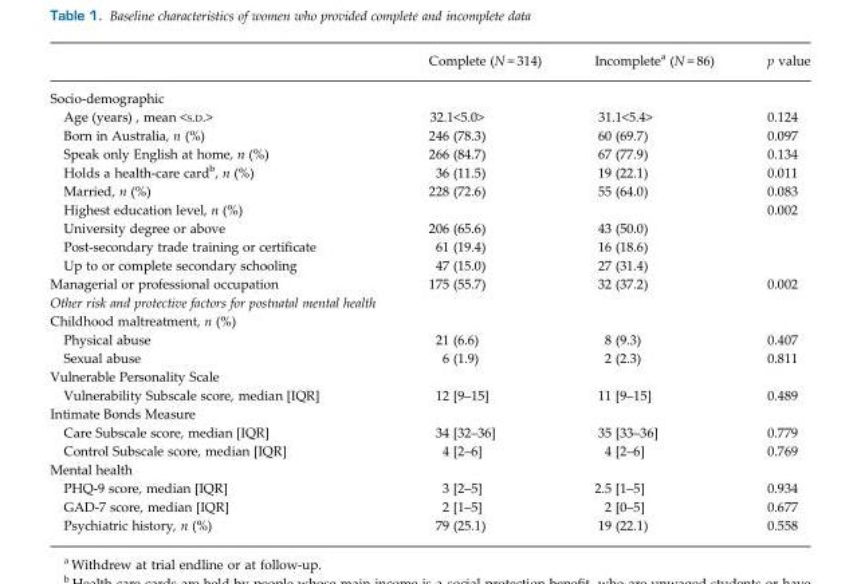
<table><thead><tr><td></td><td>Complete (N = 314)</td><td>Incomplete<sup>a</sup> (N = 86)</td><td>p value</td></tr></thead><tbody><tr><td colspan="4">Socio-demographic</td></tr><tr><td>Age (years) , mean &lt;S.D.&gt;</td><td>32.1&lt;5.0&gt;</td><td>31.1&lt;5.4&gt;</td><td>0.124</td></tr><tr><td>Born in Australia, n (%)</td><td>246 (78.3)</td><td>60 (69.7)</td><td>0.097</td></tr><tr><td>Speak only English at home, n (%)</td><td>266 (84.7)</td><td>67 (77.9)</td><td>0.134</td></tr><tr><td>Holds a health-care card<sup>b</sup>, n (%)</td><td>36 (11.5)</td><td>19 (22.1)</td><td>0.011</td></tr><tr><td>Married, n (%)</td><td>228 (72.6)</td><td>55 (64.0)</td><td>0.083</td></tr><tr><td>Highest education level, n (%)</td><td></td><td></td><td>0.002</td></tr><tr><td>University degree or above</td><td>206 (65.6)</td><td>43 (50.0)</td><td></td></tr><tr><td>Post-secondary trade training or certificate</td><td>61 (19.4)</td><td>16 (18.6)</td><td></td></tr><tr><td>Up to or complete secondary schooling</td><td>47 (15.0)</td><td>27 (31.4)</td><td></td></tr><tr><td>Managerial or professional occupation</td><td>175 (55.7)</td><td>32 (37.2)</td><td>0.002</td></tr><tr><td colspan="4">Other risk and protective factors for postnatal mental health</td></tr><tr><td colspan="4">Childhood maltreatment, n (%)</td></tr><tr><td>Physical abuse</td><td>21 (6.6)</td><td>8 (9.3)</td><td>0.407</td></tr><tr><td>Sexual abuse</td><td>6 (1.9)</td><td>2 (2.3)</td><td>0.811</td></tr><tr><td colspan="4">Vulnerable Personality Scale</td></tr><tr><td>Vulnerability Subscale score, median [IQR]</td><td>12 [9–15]</td><td>11 [9–15]</td><td>0.489</td></tr><tr><td colspan="4">Intimate Bonds Measure</td></tr><tr><td>Care Subscale score, median [IQR]</td><td>34 [32–36]</td><td>35 [33–36]</td><td>0.779</td></tr><tr><td>Control Subscale score, median [IQR]</td><td>4 [2–6]</td><td>4 [2–6]</td><td>0.769</td></tr><tr><td colspan="4">Mental health</td></tr><tr><td>PHQ-9 score, median [IQR]</td><td>3 [2–5]</td><td>2.5 [1–5]</td><td>0.934</td></tr><tr><td>GAD-7 score, median [IQR]</td><td>2 [1–5]</td><td>2 [0–5]</td><td>0.677</td></tr><tr><td>Psychiatric history, n (%)</td><td>79 (25.1)</td><td>19 (22.1)</td><td>0.558</td></tr></tbody></table>